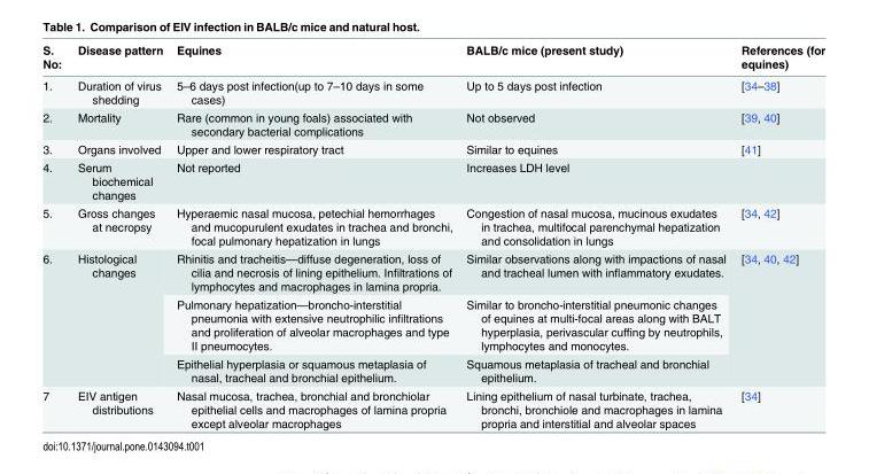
<table><thead><tr><td>S. No:</td><td>Disease pattern</td><td>Equines</td><td>BALB/c mice (present study)</td><td>References (for equines)</td></tr></thead><tbody><tr><td>1.</td><td>Duration of virus shedding</td><td>5–6 days post infection(up to 7–10 days in some cases)</td><td>Up to 5 days post infection</td><td>[34–38]</td></tr><tr><td>2.</td><td>Mortality</td><td>Rare (common in young foals) associated with secondary bacterial complications</td><td>Not observed</td><td>[39, 40]</td></tr><tr><td>3.</td><td>Organs involved</td><td>Upper and lower respiratory tract</td><td>Similar to equines</td><td>[41]</td></tr><tr><td>4.</td><td>Serum biochemical changes</td><td>Not reported</td><td>Increases LDH level</td><td></td></tr><tr><td>5.</td><td>Gross changes at necropsy</td><td>Hyperaemic nasal mucosa, petechial hemorrhages and mucopurulent exudates in trachea and bronchi, focal pulmonary hepatization in lungs</td><td>Congestion of nasal mucosa, mucinous exudates in trachea, multifocal parenchymal hepatization and consolidation in lungs</td><td>[34, 42]</td></tr><tr><td rowspan="3">6.</td><td rowspan="3">Histological changes</td><td>Rhinitis and tracheitis—diffuse degeneration, loss of cilia and necrosis of lining epithelium. Infiltrations of lymphocytes and macrophages in lamina propria.</td><td>Similar observations along with impactions of nasal and tracheal lumen with inflammatory exudates.</td><td rowspan="3">[34, 40, 42]</td></tr><tr><td>Pulmonary hepatization—broncho-interstitial pneumonia with extensive neutrophilic infiltrations and proliferation of alveolar macrophages and type II pneumocytes.</td><td>Similar to broncho-interstitial pneumonic changes of equines at multi-focal areas along with BALT hyperplasia, perivascular cuffing by neutrophils, lymphocytes and monocytes.</td></tr><tr><td>Epithelial hyperplasia or squamous metaplasia of nasal, tracheal and bronchial epithelium.</td><td>Squamous metaplasia of tracheal and bronchial epithelium.</td></tr><tr><td>7</td><td>EIV antigen distributions</td><td>Nasal mucosa, trachea, bronchial and bronchiolar epithelial cells and macrophages of lamina propria except alveolar macrophages</td><td>Lining epithelium of nasal turbinate, trachea, bronchi, bronchiole and macrophages in lamina propria and interstitial and alveolar spaces</td><td>[34]</td></tr></tbody></table>